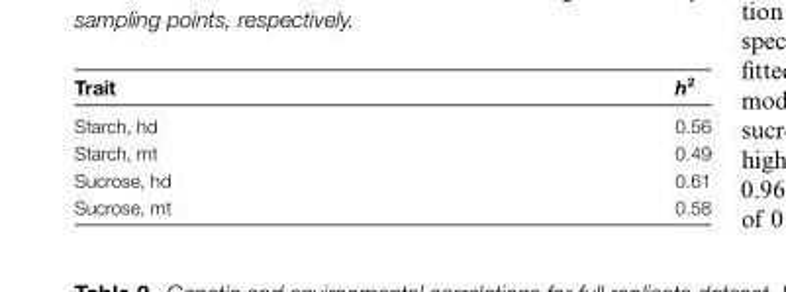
<table><thead><tr><td>Trait</td><td>h<sup>2</sup></td></tr></thead><tbody><tr><td>Starch, hd</td><td>0.56</td></tr><tr><td>Starch, mt</td><td>0.49</td></tr><tr><td>Sucrose, hd</td><td>0.61</td></tr><tr><td>Sucrose, mt</td><td>0.58</td></tr></tbody></table>